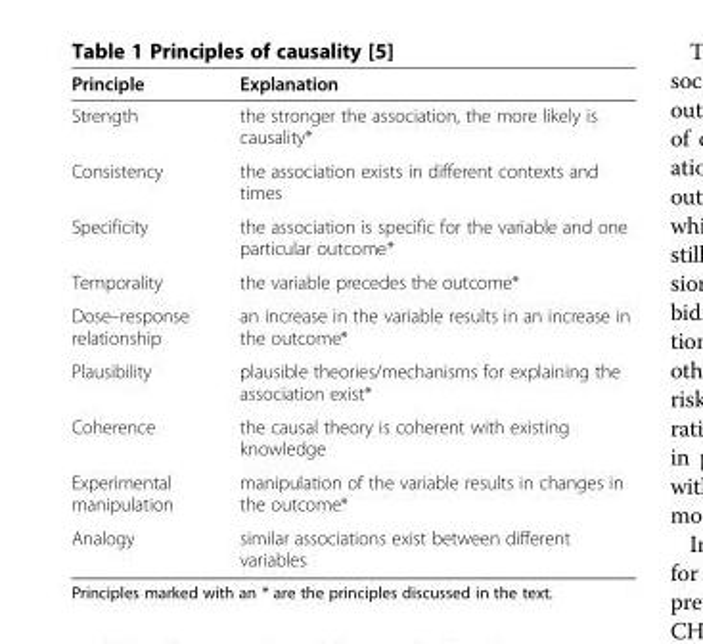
<table><thead><tr><td>Principle</td><td>Explanation</td></tr></thead><tbody><tr><td>Strength</td><td>the stronger the association, the more likely is causality*</td></tr><tr><td>Consistency</td><td>the association exists in different contexts and times</td></tr><tr><td>Specificity</td><td>the association is specific for the variable and one particular outcome*</td></tr><tr><td>Temporality</td><td>the variable precedes the outcome*</td></tr><tr><td>Dose–response relationship</td><td>an increase in the variable results in an increase in the outcome*</td></tr><tr><td>Plausibility</td><td>plausible theories/mechanisms for explaining the association exist*</td></tr><tr><td>Coherence</td><td>the causal theory is coherent with existing knowledge</td></tr><tr><td>Experimental manipulation</td><td>manipulation of the variable results in changes in the outcome*</td></tr><tr><td>Analogy</td><td>similar associations exist between different variables</td></tr></tbody></table>